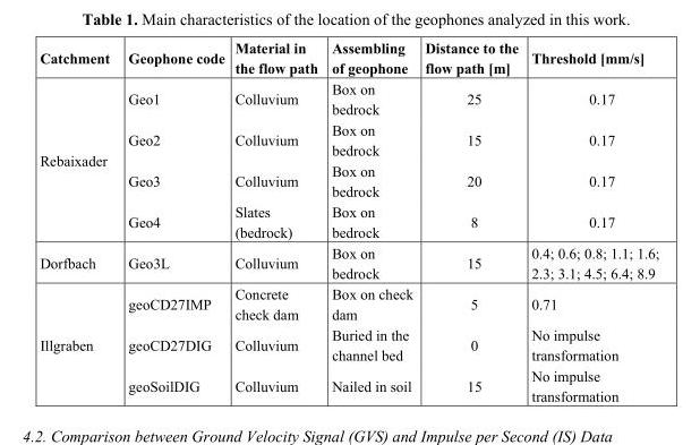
<table><thead><tr><td>Catchment</td><td>Geophone code</td><td>Material in the flow path</td><td>Assembling of geophone</td><td>Distance to the flow path [m]</td><td>Threshold [mm/s]</td></tr></thead><tbody><tr><td rowspan="4">Rebaixader</td><td>Geo1</td><td>Colluvium</td><td>Box on bedrock</td><td>25</td><td>0.17</td></tr><tr><td>Geo2</td><td>Colluvium</td><td>Box on bedrock</td><td>15</td><td>0.17</td></tr><tr><td>Geo3</td><td>Colluvium</td><td>Box on bedrock</td><td>20</td><td>0.17</td></tr><tr><td>Geo4</td><td>Slates (bedrock)</td><td>Box on bedrock</td><td>8</td><td>0.17</td></tr><tr><td>Dorfbach</td><td>Geo3L</td><td>Colluvium</td><td>Box on bedrock</td><td>15</td><td>0.4; 0.6; 0.8; 1.1; 1.6; 2.3; 3.1; 4.5; 6.4; 8.9</td></tr><tr><td rowspan="3">Illgraben</td><td>geoCD27IMP</td><td>Concrete check dam</td><td>Box on check dam</td><td>5</td><td>0.71</td></tr><tr><td>geoCD27DIG</td><td>Colluvium</td><td>Buried in the channel bed</td><td>0</td><td>No impulse transformation</td></tr><tr><td>geoSoilDIG</td><td>Colluvium</td><td>Nailed in soil</td><td>15</td><td>No impulse transformation</td></tr></tbody></table>